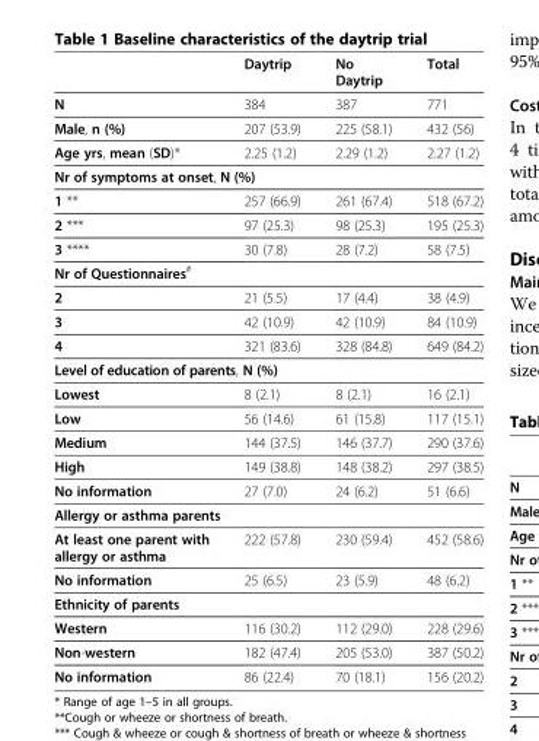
<table><thead><tr><td></td><td>Daytrip</td><td>No Daytrip</td><td>Total</td></tr></thead><tbody><tr><td>N</td><td>384</td><td>387</td><td>771</td></tr><tr><td>Male, n (%)</td><td>207 (53.9)</td><td>225 (58.1)</td><td>432 (56)</td></tr><tr><td>Age yrs, mean (SD)*</td><td>2.25 (1.2)</td><td>2.29 (1.2)</td><td>2.27 (1.2)</td></tr><tr><td colspan="4">Nr of symptoms at onset, N (%)</td></tr><tr><td>1 **</td><td>257 (66.9)</td><td>261 (67.4)</td><td>518 (67.2)</td></tr><tr><td>2 ***</td><td>97 (25.3)</td><td>98 (25.3)</td><td>195 (25.3)</td></tr><tr><td>3 ****</td><td>30 (7.8)</td><td>28 (7.2)</td><td>58 (7.5)</td></tr><tr><td colspan="4">Nr of Questionnaires<sup>#</sup></td></tr><tr><td>2</td><td>21 (5.5)</td><td>17 (4.4)</td><td>38 (4.9)</td></tr><tr><td>3</td><td>42 (10.9)</td><td>42 (10.9)</td><td>84 (10.9)</td></tr><tr><td>4</td><td>321 (83.6)</td><td>328 (84.8)</td><td>649 (84.2)</td></tr><tr><td colspan="4">Level of education of parents, N (%)</td></tr><tr><td>Lowest</td><td>8 (2.1)</td><td>8 (2.1)</td><td>16 (2.1)</td></tr><tr><td>Low</td><td>56 (14.6)</td><td>61 (15.8)</td><td>117 (15.1)</td></tr><tr><td>Medium</td><td>144 (37.5)</td><td>146 (37.7)</td><td>290 (37.6)</td></tr><tr><td>High</td><td>149 (38.8)</td><td>148 (38.2)</td><td>297 (38.5)</td></tr><tr><td>No information</td><td>27 (7.0)</td><td>24 (6.2)</td><td>51 (6.6)</td></tr><tr><td colspan="4">Allergy or asthma parents</td></tr><tr><td>At least one parent with allergy or asthma</td><td>222 (57.8)</td><td>230 (59.4)</td><td>452 (58.6)</td></tr><tr><td>No information</td><td>25 (6.5)</td><td>23 (5.9)</td><td>48 (6.2)</td></tr><tr><td colspan="4">Ethnicity of parents</td></tr><tr><td>Western</td><td>116 (30.2)</td><td>112 (29.0)</td><td>228 (29.6)</td></tr><tr><td>Non-western</td><td>182 (47.4)</td><td>205 (53.0)</td><td>387 (50.2)</td></tr><tr><td>No information</td><td>86 (22.4)</td><td>70 (18.1)</td><td>156 (20.2)</td></tr></tbody></table>